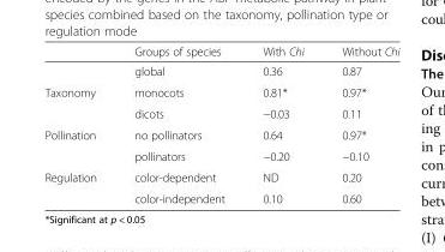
<table><thead><tr><td></td><td>Groups of species</td><td>With Chi</td><td>Without Chi</td></tr></thead><tbody><tr><td></td><td>global</td><td>0.36</td><td>0.87</td></tr><tr><td rowspan="2">Taxonomy</td><td>monocots</td><td>0.81*</td><td>0.97*</td></tr><tr><td>dicots</td><td>−0.03</td><td>0.11</td></tr><tr><td rowspan="2">Pollination</td><td>no pollinators</td><td>0.64</td><td>0.97*</td></tr><tr><td>pollinators</td><td>−0.20</td><td>−0.10</td></tr><tr><td rowspan="2">Regulation</td><td>color-dependent</td><td>ND</td><td>0.20</td></tr><tr><td>color-independent</td><td>0.10</td><td>0.60</td></tr></tbody></table>